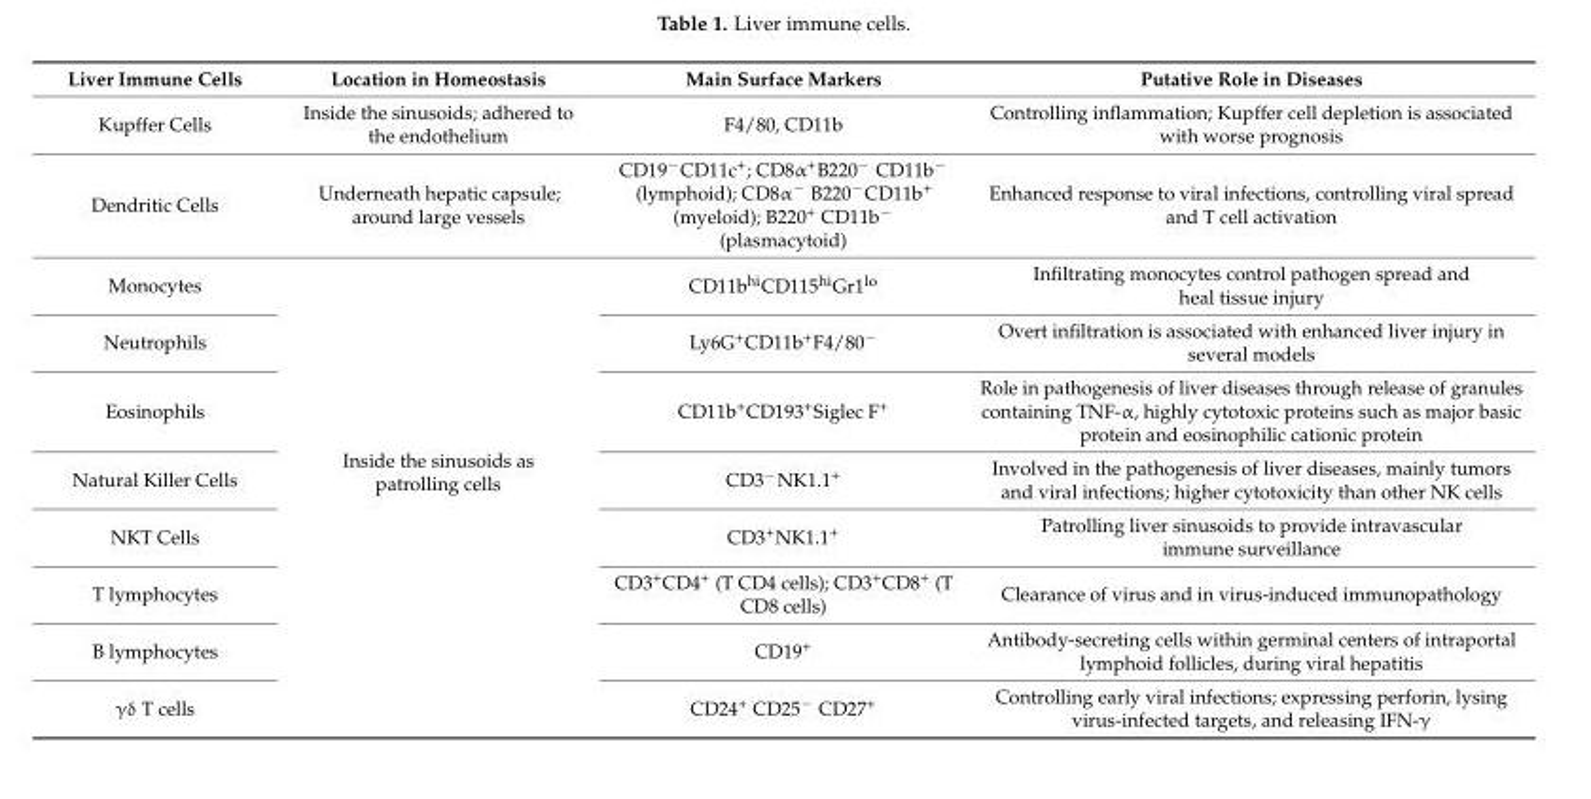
<table><thead><tr><td>Liver Immune Cells</td><td>Location in Homeostasis</td><td>Main Surface Markers</td><td>Putative Role in Diseases</td></tr></thead><tbody><tr><td>Kupffer Cells</td><td>Inside the sinusoids; adhered to the endothelium</td><td>F4/80, CD11b</td><td>Controlling inflammation; Kupffer cell depletion is associated with worse prognosis</td></tr><tr><td>Dendritic Cells</td><td>Underneath hepatic capsule; around large vessels</td><td>CD19<sup>−</sup>CD11c<sup>+</sup>; CD8α<sup>+</sup>B220<sup>−</sup> CD11b<sup>−</sup> (lymphoid); CD8α<sup>−</sup> B220<sup>−</sup>CD11b<sup>+</sup> (myeloid); B220<sup>+</sup> CD11b<sup>−</sup> (plasmacytoid)</td><td>Enhanced response to viral infections, controlling viral spread and T cell activation</td></tr><tr><td>Monocytes</td><td rowspan="8">Inside the sinusoids as patrolling cells</td><td>CD11b<sup>hi</sup>CD115<sup>hi</sup>Gr1<sup>lo</sup></td><td>Infiltrating monocytes control pathogen spread and heal tissue injury</td></tr><tr><td>Neutrophils</td><td>Ly6G<sup>+</sup>CD11b<sup>+</sup>F4/80<sup>−</sup></td><td>Overt infiltration is associated with enhanced liver injury in several models</td></tr><tr><td>Eosinophils</td><td>CD11b<sup>+</sup>CD193<sup>+</sup>Siglec F<sup>+</sup></td><td>Role in pathogenesis of liver diseases through release of granules containing TNF-α, highly cytotoxic proteins such as major basic protein and eosinophilic cationic protein</td></tr><tr><td>Natural Killer Cells</td><td>CD3<sup>−</sup>NK1.1<sup>+</sup></td><td>Involved in the pathogenesis of liver diseases, mainly tumors and viral infections; higher cytotoxicity than other NK cells</td></tr><tr><td>NKT Cells</td><td>CD3<sup>+</sup>NK1.1<sup>+</sup></td><td>Patrolling liver sinusoids to provide intravascular immune surveillance</td></tr><tr><td>T lymphocytes</td><td>CD3<sup>+</sup>CD4<sup>+</sup> (T CD4 cells); CD3<sup>+</sup>CD8<sup>+</sup> (T CD8 cells)</td><td>Clearance of virus and in virus-induced immunopathology</td></tr><tr><td>B lymphocytes</td><td>CD19<sup>+</sup></td><td>Antibody-secreting cells within germinal centers of intraportal lymphoid follicles, during viral hepatitis</td></tr><tr><td>γδ T cells</td><td>CD24<sup>+</sup> CD25<sup>−</sup> CD27<sup>+</sup></td><td>Controlling early viral infections; expressing perforin, lysing virus-infected targets, and releasing IFN-γ</td></tr></tbody></table>